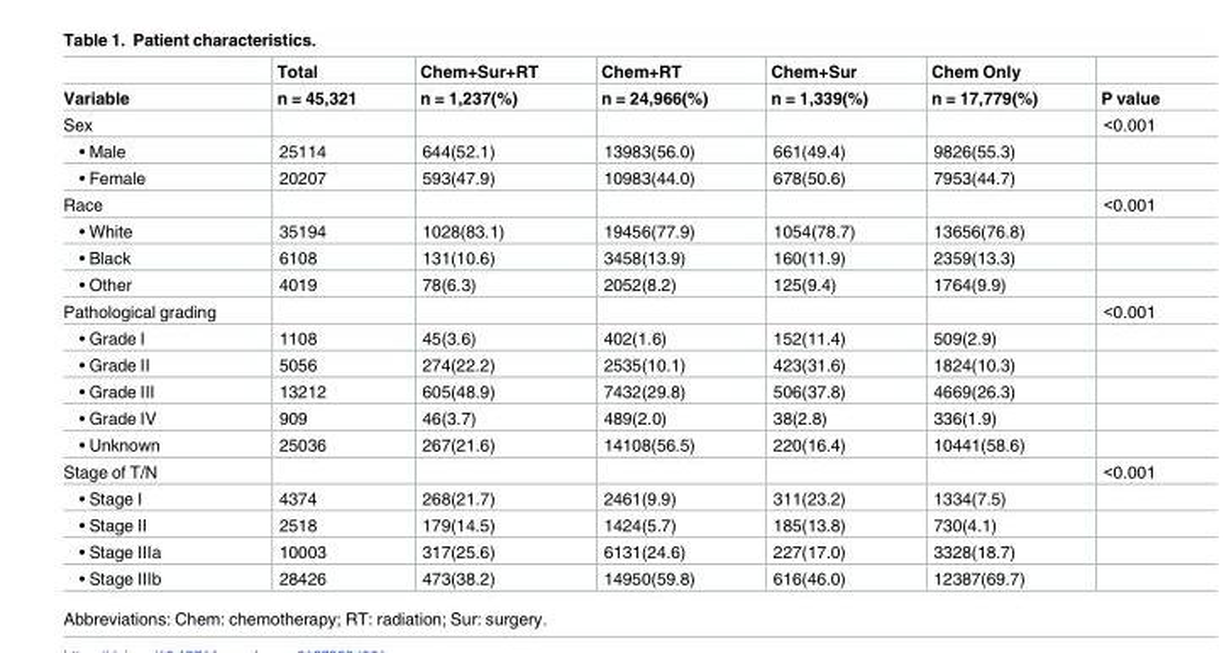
<table><thead><tr><td rowspan="2">Variable</td><td rowspan="2">Total n = 45,321</td><td rowspan="2">Chem+Sur+RT n = 1,237(%)</td><td rowspan="2">Chem+RT n = 24,966(%)</td><td rowspan="2">Chem+Sur n = 1,339(%)</td><td rowspan="2">Chem Only n = 17,779(%)</td><td rowspan="2">P value</td></tr><tr></tr></thead><tbody><tr><td>Sex</td><td></td><td></td><td></td><td></td><td></td><td>&lt;0.001</td></tr><tr><td>• Male</td><td>25114</td><td>644(52.1)</td><td>13983(56.0)</td><td>661(49.4)</td><td>9826(55.3)</td><td></td></tr><tr><td>• Female</td><td>20207</td><td>593(47.9)</td><td>10983(44.0)</td><td>678(50.6)</td><td>7953(44.7)</td><td></td></tr><tr><td>Race</td><td></td><td></td><td></td><td></td><td></td><td>&lt;0.001</td></tr><tr><td>• White</td><td>35194</td><td>1028(83.1)</td><td>19456(77.9)</td><td>1054(78.7)</td><td>13656(76.8)</td><td></td></tr><tr><td>• Black</td><td>6108</td><td>131(10.6)</td><td>3458(13.9)</td><td>160(11.9)</td><td>2359(13.3)</td><td></td></tr><tr><td>• Other</td><td>4019</td><td>78(6.3)</td><td>2052(8.2)</td><td>125(9.4)</td><td>1764(9.9)</td><td></td></tr><tr><td>Pathological grading</td><td></td><td></td><td></td><td></td><td></td><td>&lt;0.001</td></tr><tr><td>• Grade I</td><td>1108</td><td>45(3.6)</td><td>402(1.6)</td><td>152(11.4)</td><td>509(2.9)</td><td></td></tr><tr><td>• Grade II</td><td>5056</td><td>274(22.2)</td><td>2535(10.1)</td><td>423(31.6)</td><td>1824(10.3)</td><td></td></tr><tr><td>• Grade III</td><td>13212</td><td>605(48.9)</td><td>7432(29.8)</td><td>506(37.8)</td><td>4669(26.3)</td><td></td></tr><tr><td>• Grade IV</td><td>909</td><td>46(3.7)</td><td>489(2.0)</td><td>38(2.8)</td><td>336(1.9)</td><td></td></tr><tr><td>• Unknown</td><td>25036</td><td>267(21.6)</td><td>14108(56.5)</td><td>220(16.4)</td><td>10441(58.6)</td><td></td></tr><tr><td>Stage of T/N</td><td></td><td></td><td></td><td></td><td></td><td>&lt;0.001</td></tr><tr><td>• Stage I</td><td>4374</td><td>268(21.7)</td><td>2461(9.9)</td><td>311(23.2)</td><td>1334(7.5)</td><td></td></tr><tr><td>• Stage II</td><td>2518</td><td>179(14.5)</td><td>1424(5.7)</td><td>185(13.8)</td><td>730(4.1)</td><td></td></tr><tr><td>• Stage IIIa</td><td>10003</td><td>317(25.6)</td><td>6131(24.6)</td><td>227(17.0)</td><td>3328(18.7)</td><td></td></tr><tr><td>• Stage IIIb</td><td>28426</td><td>473(38.2)</td><td>14950(59.8)</td><td>616(46.0)</td><td>12387(69.7)</td><td></td></tr></tbody></table>